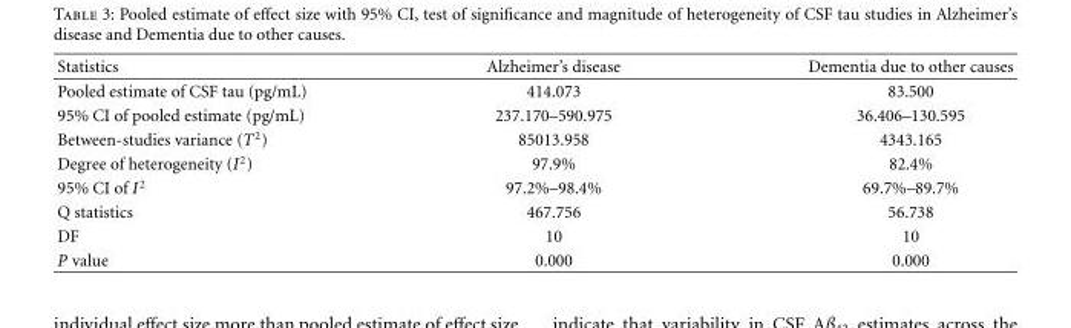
<table><thead><tr><td>Statistics</td><td>Alzheimer’s disease</td><td>Dementia due to other causes</td></tr></thead><tbody><tr><td>Pooled estimate of CSF tau (pg/mL)</td><td>414.073</td><td>83.500</td></tr><tr><td>95% CI of pooled estimate (pg/mL)</td><td>237.170–590.975</td><td>36.406–130.595</td></tr><tr><td>Between-studies variance (T<sup>2</sup>)</td><td>85013.958</td><td>4343.165</td></tr><tr><td>Degree of heterogeneity (I<sup>2</sup>)</td><td>97.9%</td><td>82.4%</td></tr><tr><td>95% CI of I<sup>2</sup></td><td>97.2%–98.4%</td><td>69.7%–89.7%</td></tr><tr><td>Q statistics</td><td>467.756</td><td>56.738</td></tr><tr><td>DF</td><td>10</td><td>10</td></tr><tr><td>P value</td><td>0.000</td><td>0.000</td></tr></tbody></table>